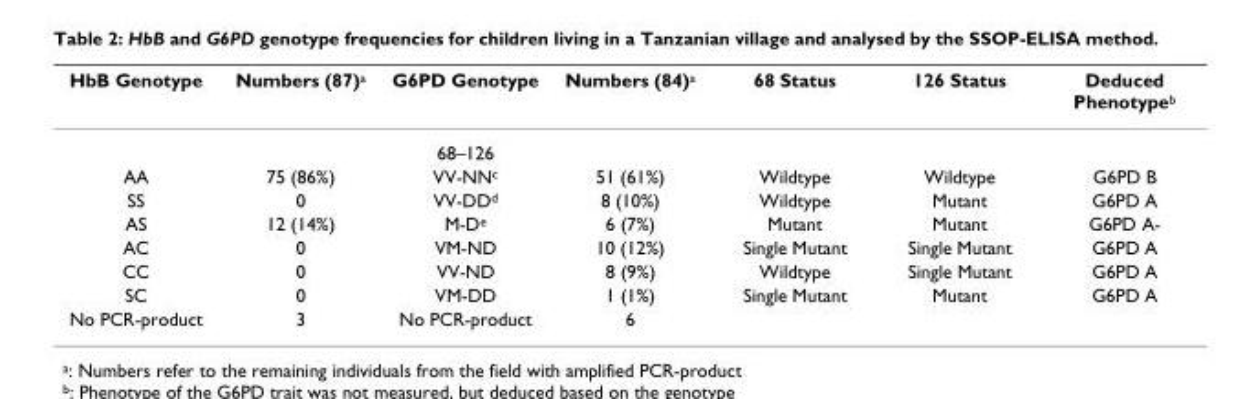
<table><thead><tr><td>HbB Genotype</td><td>Numbers (87)<sup>a</sup></td><td>G6PD Genotype</td><td>Numbers (84)<sup>a</sup></td><td>68 Status</td><td>126 Status</td><td>Deduced Phenotype<sup>b</sup></td></tr></thead><tbody><tr><td></td><td></td><td>68–126</td><td></td><td></td><td></td><td></td></tr><tr><td>AA</td><td>75 (86%)</td><td>VV-NN<sup>c</sup></td><td>51 (61%)</td><td>Wildtype</td><td>Wildtype</td><td>G6PD B</td></tr><tr><td>SS</td><td>0</td><td>VV-DD<sup>d</sup></td><td>8 (10%)</td><td>Wildtype</td><td>Mutant</td><td>G6PD A</td></tr><tr><td>AS</td><td>12 (14%)</td><td>M-D<sup>e</sup></td><td>6 (7%)</td><td>Mutant</td><td>Mutant</td><td>G6PD A-</td></tr><tr><td>AC</td><td>0</td><td>VM-ND</td><td>10 (12%)</td><td>Single Mutant</td><td>Single Mutant</td><td>G6PD A</td></tr><tr><td>CC</td><td>0</td><td>VV-ND</td><td>8 (9%)</td><td>Wildtype</td><td>Single Mutant</td><td>G6PD A</td></tr><tr><td>SC</td><td>0</td><td>VM-DD</td><td>1 (1%)</td><td>Single Mutant</td><td>Mutant</td><td>G6PD A</td></tr><tr><td>No PCR-product</td><td>3</td><td>No PCR-product</td><td>6</td><td></td><td></td><td></td></tr></tbody></table>